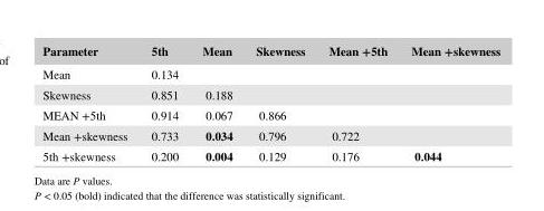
<table><thead><tr><td>Parameter</td><td>5th</td><td>Mean</td><td>Skewness</td><td>Mean +5th</td><td>Mean +skewness</td></tr></thead><tbody><tr><td>Mean</td><td>0.134</td><td></td><td></td><td></td><td></td></tr><tr><td>Skewness</td><td>0.851</td><td>0.188</td><td></td><td></td><td></td></tr><tr><td>MEAN +5th</td><td>0.914</td><td>0.067</td><td>0.866</td><td></td><td></td></tr><tr><td>Mean +skewness</td><td>0.733</td><td>0.034</td><td>0.796</td><td>0.722</td><td></td></tr><tr><td>5th +skewness</td><td>0.200</td><td>0.004</td><td>0.129</td><td>0.176</td><td>0.044</td></tr></tbody></table>